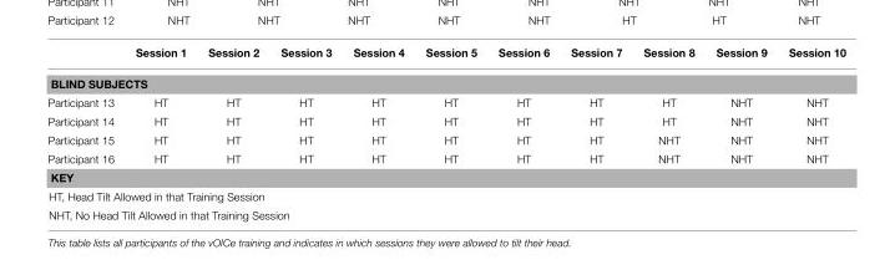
<table><thead><tr><td></td><td>Session 1</td><td>Session 2</td><td>Session 3</td><td>Session 4</td><td>Session 5</td><td>Session 6</td><td>Session 7</td><td>Session 8</td><td>Session 9</td><td>Session 10</td></tr></thead><tbody><tr><td colspan="11">BLIND SUBJECTS</td></tr><tr><td>Participant 13</td><td>HT</td><td>HT</td><td>HT</td><td>HT</td><td>HT</td><td>HT</td><td>HT</td><td>HT</td><td>NHT</td><td>NHT</td></tr><tr><td>Participant 14</td><td>HT</td><td>HT</td><td>HT</td><td>HT</td><td>HT</td><td>HT</td><td>HT</td><td>HT</td><td>NHT</td><td>NHT</td></tr><tr><td>Participant 15</td><td>HT</td><td>HT</td><td>HT</td><td>HT</td><td>HT</td><td>HT</td><td>HT</td><td>NHT</td><td>NHT</td><td>NHT</td></tr><tr><td>Participant 16</td><td>HT</td><td>HT</td><td>HT</td><td>HT</td><td>HT</td><td>HT</td><td>HT</td><td>NHT</td><td>NHT</td><td>NHT</td></tr><tr><td colspan="11">KEY</td></tr><tr><td colspan="11">HT, Head Tilt Allowed in that Training Session</td></tr><tr><td colspan="11">NHT, No Head Tilt Allowed in that Training Session</td></tr></tbody></table>